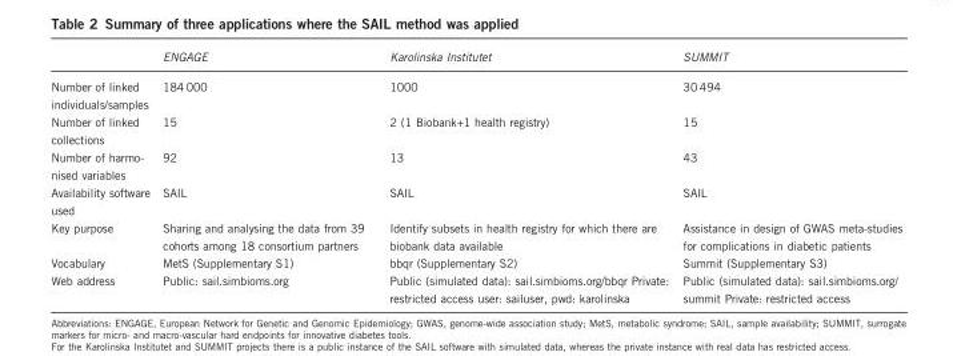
<table><thead><tr><td></td><td>ENGAGE</td><td>Karolinska Institutet</td><td>SUMMIT</td></tr></thead><tbody><tr><td>Number of linked individuals/samples</td><td>184 000</td><td>1000</td><td>30 494</td></tr><tr><td>Number of linked collections</td><td>15</td><td>2 (1 Biobank+1 health registry)</td><td>15</td></tr><tr><td>Number of harmo- nised variables</td><td>92</td><td>13</td><td>43</td></tr><tr><td>Availability software used</td><td>SAIL</td><td>SAIL</td><td>SAIL</td></tr><tr><td>Key purpose</td><td>Sharing and analysing the data from 39 cohorts among 18 consortium partners</td><td>Identify subsets in health registry for which there are biobank data available</td><td>Assistance in design of GWAS meta-studies for complications in diabetic patients</td></tr><tr><td>Vocabulary</td><td>MetS (Supplementary S1)</td><td>bbqr (Supplementary S2)</td><td>Summit (Supplementary S3)</td></tr><tr><td>Web address</td><td>Public: sail.simbioms.org</td><td>Public (simulated data): sail.simbioms.org/bbqr Private: restricted access user: sailuser, pwd: karolinska</td><td>Public (simulated data): sail.simbioms.org/ summit Private: restricted access</td></tr></tbody></table>